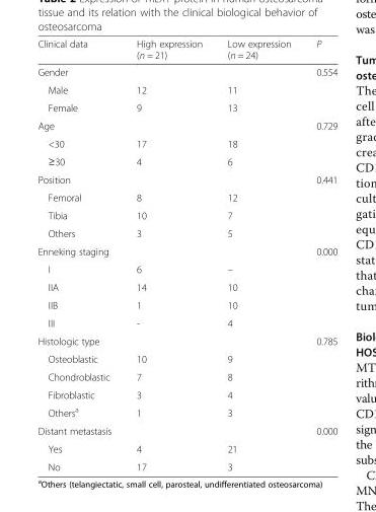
<table><thead><tr><td>Clinical data</td><td>High expression (n = 21)</td><td>Low expression (n = 24)</td><td>P</td></tr></thead><tbody><tr><td>Gender</td><td></td><td></td><td>0.554</td></tr><tr><td>Male</td><td>12</td><td>11</td><td></td></tr><tr><td>Female</td><td>9</td><td>13</td><td></td></tr><tr><td>Age</td><td></td><td></td><td>0.729</td></tr><tr><td>&lt;30</td><td>17</td><td>18</td><td></td></tr><tr><td>≥30</td><td>4</td><td>6</td><td></td></tr><tr><td>Position</td><td></td><td></td><td>0.441</td></tr><tr><td>Femoral</td><td>8</td><td>12</td><td></td></tr><tr><td>Tibia</td><td>10</td><td>7</td><td></td></tr><tr><td>Others</td><td>3</td><td>5</td><td></td></tr><tr><td>Enneking staging</td><td></td><td></td><td>0.000</td></tr><tr><td>I</td><td>6</td><td>–</td><td></td></tr><tr><td>IIA</td><td>14</td><td>10</td><td></td></tr><tr><td>IIB</td><td>1</td><td>10</td><td></td></tr><tr><td>III</td><td>-</td><td>4</td><td></td></tr><tr><td>Histologic type</td><td></td><td></td><td>0.785</td></tr><tr><td>Osteoblastic</td><td>10</td><td>9</td><td></td></tr><tr><td>Chondroblastic</td><td>7</td><td>8</td><td></td></tr><tr><td>Fibroblastic</td><td>3</td><td>4</td><td></td></tr><tr><td>Others<sup>a</sup></td><td>1</td><td>3</td><td></td></tr><tr><td>Distant metastasis</td><td></td><td></td><td>0.000</td></tr><tr><td>Yes</td><td>4</td><td>21</td><td></td></tr><tr><td>No</td><td>17</td><td>3</td><td></td></tr></tbody></table>